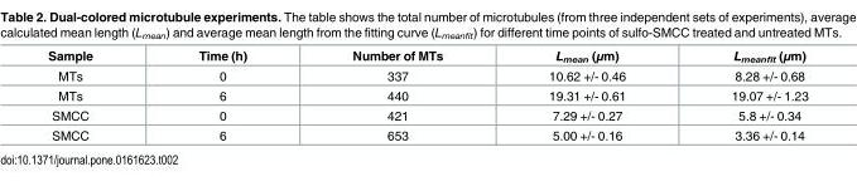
<table><thead><tr><td>Sample</td><td>Time (h)</td><td>Number of MTs</td><td>L<sub>mean</sub> (μm)</td><td>L<sub>meanfit</sub> (μm)</td></tr></thead><tbody><tr><td>MTs</td><td>0</td><td>337</td><td>10.62 +/- 0.46</td><td>8.28 +/- 0.68</td></tr><tr><td>MTs</td><td>6</td><td>440</td><td>19.31 +/- 0.61</td><td>19.07 +/- 1.23</td></tr><tr><td>SMCC</td><td>0</td><td>421</td><td>7.29 +/- 0.27</td><td>5.8 +/- 0.34</td></tr><tr><td>SMCC</td><td>6</td><td>653</td><td>5.00 +/- 0.16</td><td>3.36 +/- 0.14</td></tr></tbody></table>